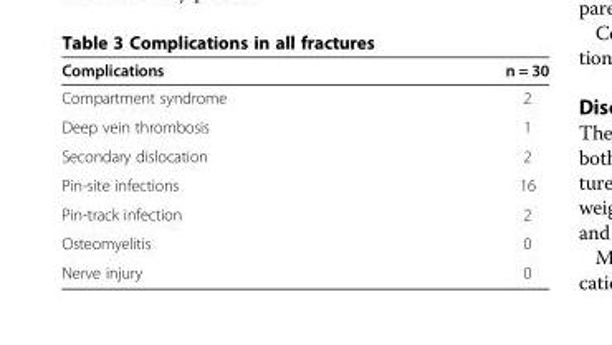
<table><thead><tr><td>Complications</td><td>n = 30</td></tr></thead><tbody><tr><td>Compartment syndrome</td><td>2</td></tr><tr><td>Deep vein thrombosis</td><td>1</td></tr><tr><td>Secondary dislocation</td><td>2</td></tr><tr><td>Pin-site infections</td><td>16</td></tr><tr><td>Pin-track infection</td><td>2</td></tr><tr><td>Osteomyelitis</td><td>0</td></tr><tr><td>Nerve injury</td><td>0</td></tr></tbody></table>